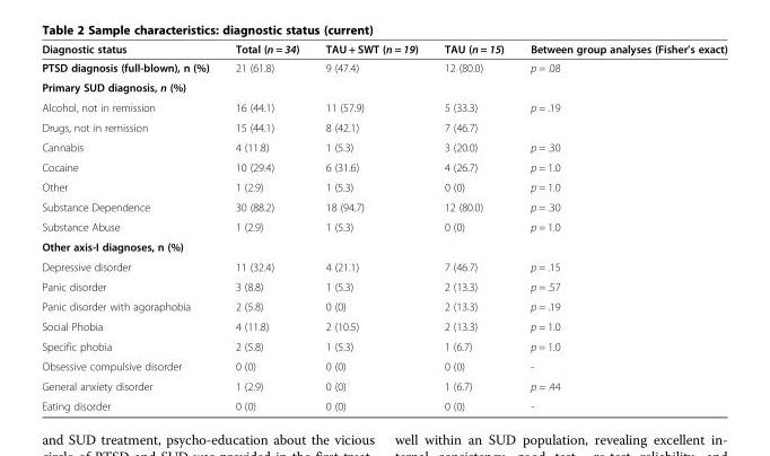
<table><thead><tr><td>Diagnostic status</td><td>Total (n = 34)</td><td>TAU + SWT (n = 19)</td><td>TAU (n = 15)</td><td>Between group analyses (Fisher’s exact)</td></tr></thead><tbody><tr><td>PTSD diagnosis (full-blown), n (%)</td><td>21 (61.8)</td><td>9 (47.4)</td><td>12 (80.0)</td><td>p = .08</td></tr><tr><td colspan="5">Primary SUD diagnosis, n (%)</td></tr><tr><td>Alcohol, not in remission</td><td>16 (44.1)</td><td>11 (57.9)</td><td>5 (33.3)</td><td>p = .19</td></tr><tr><td>Drugs, not in remission</td><td>15 (44.1)</td><td>8 (42.1)</td><td>7 (46.7)</td><td></td></tr><tr><td>Cannabis</td><td>4 (11.8)</td><td>1 (5.3)</td><td>3 (20.0)</td><td>p = .30</td></tr><tr><td>Cocaine</td><td>10 (29.4)</td><td>6 (31.6)</td><td>4 (26.7)</td><td>p = 1.0</td></tr><tr><td>Other</td><td>1 (2.9)</td><td>1 (5.3)</td><td>0 (0)</td><td>p = 1.0</td></tr><tr><td>Substance Dependence</td><td>30 (88.2)</td><td>18 (94.7)</td><td>12 (80.0)</td><td>p = .30</td></tr><tr><td>Substance Abuse</td><td>1 (2.9)</td><td>1 (5.3)</td><td>0 (0)</td><td>p = 1.0</td></tr><tr><td colspan="5">Other axis-I diagnoses, n (%)</td></tr><tr><td>Depressive disorder</td><td>11 (32.4)</td><td>4 (21.1)</td><td>7 (46.7)</td><td>p = .15</td></tr><tr><td>Panic disorder</td><td>3 (8.8)</td><td>1 (5.3)</td><td>2 (13.3)</td><td>p = .57</td></tr><tr><td>Panic disorder with agoraphobia</td><td>2 (5.8)</td><td>0 (0)</td><td>2 (13.3)</td><td>p = .19</td></tr><tr><td>Social Phobia</td><td>4 (11.8)</td><td>2 (10.5)</td><td>2 (13.3)</td><td>p = 1.0</td></tr><tr><td>Specific phobia</td><td>2 (5.8)</td><td>1 (5.3)</td><td>1 (6.7)</td><td>p = 1.0</td></tr><tr><td>Obsessive compulsive disorder</td><td>0 (0)</td><td>0 (0)</td><td>0 (0)</td><td>-</td></tr><tr><td>General anxiety disorder</td><td>1 (2.9)</td><td>0 (0)</td><td>1 (6.7)</td><td>p = .44</td></tr><tr><td>Eating disorder</td><td>0 (0)</td><td>0 (0)</td><td>0 (0)</td><td>-</td></tr></tbody></table>